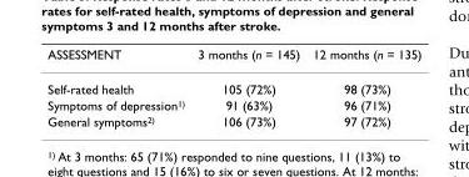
<table><thead><tr><td>ASSESSMENT</td><td>3 months (n = 145)</td><td>12 months (n = 135)</td></tr></thead><tbody><tr><td>Self-rated health</td><td>105 (72%)</td><td>98 (73%)</td></tr><tr><td>Symptoms of depression<sup>1)</sup></td><td>91 (63%)</td><td>96 (71%)</td></tr><tr><td>General symptoms<sup>2)</sup></td><td>106 (73%)</td><td>97 (72%)</td></tr></tbody></table>